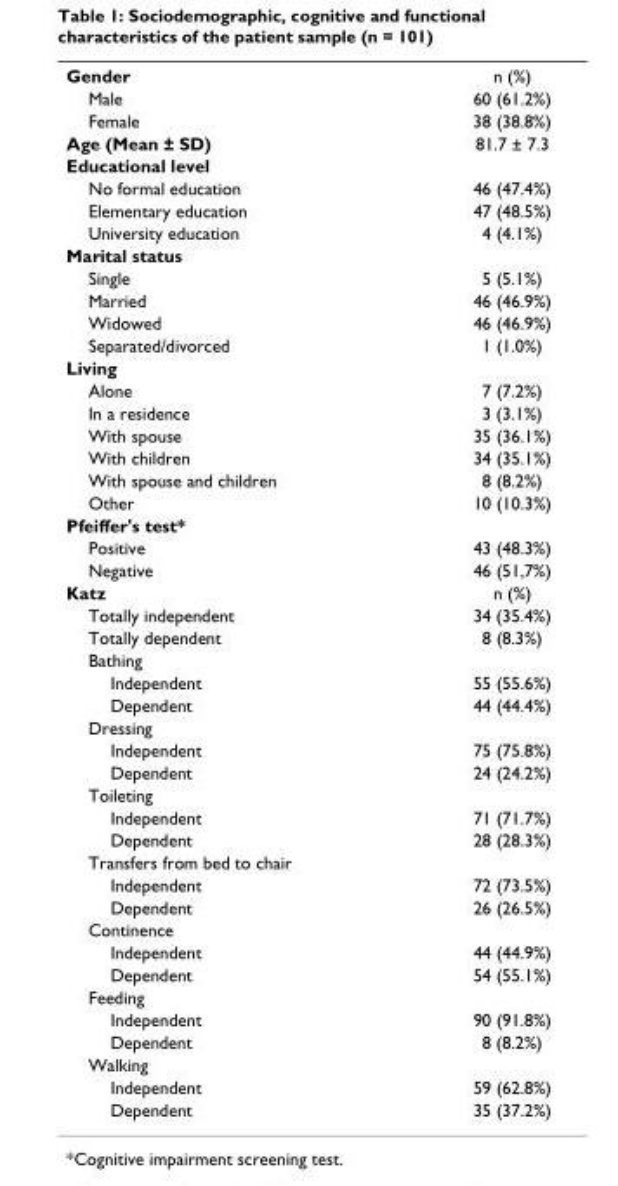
<table><tbody><tr><td>Gender</td><td>n (%)</td></tr><tr><td>Male</td><td>60 (61.2%)</td></tr><tr><td>Female</td><td>38 (38.8%)</td></tr><tr><td>Age (Mean ± SD)</td><td>81.7 ± 7.3</td></tr><tr><td colspan="2">Educational level</td></tr><tr><td>No formal education</td><td>46 (47.4%)</td></tr><tr><td>Elementary education</td><td>47 (48.5%)</td></tr><tr><td>University education</td><td>4 (4.1%)</td></tr><tr><td colspan="2">Marital status</td></tr><tr><td>Single</td><td>5 (5.1%)</td></tr><tr><td>Married</td><td>46 (46.9%)</td></tr><tr><td>Widowed</td><td>46 (46.9%)</td></tr><tr><td>Separated/divorced</td><td>1 (1.0%)</td></tr><tr><td colspan="2">Living</td></tr><tr><td>Alone</td><td>7 (7.2%)</td></tr><tr><td>In a residence</td><td>3 (3.1%)</td></tr><tr><td>With spouse</td><td>35 (36.1%)</td></tr><tr><td>With children</td><td>34 (35.1%)</td></tr><tr><td>With spouse and children</td><td>8 (8.2%)</td></tr><tr><td>Other</td><td>10 (10.3%)</td></tr><tr><td colspan="2">Pfeiffer&#x27;s test*</td></tr><tr><td>Positive</td><td>43 (48.3%)</td></tr><tr><td>Negative</td><td>46 (51,7%)</td></tr><tr><td>Katz</td><td>n (%)</td></tr><tr><td>Totally independent</td><td>34 (35.4%)</td></tr><tr><td>Totally dependent</td><td>8 (8.3%)</td></tr><tr><td colspan="2">Bathing</td></tr><tr><td>Independent</td><td>55 (55.6%)</td></tr><tr><td>Dependent</td><td>44 (44.4%)</td></tr><tr><td colspan="2">Dressing</td></tr><tr><td>Independent</td><td>75 (75.8%)</td></tr><tr><td>Dependent</td><td>24 (24.2%)</td></tr><tr><td colspan="2">Toileting</td></tr><tr><td>Independent</td><td>71 (71.7%)</td></tr><tr><td>Dependent</td><td>28 (28.3%)</td></tr><tr><td colspan="2">Transfers from bed to chair</td></tr><tr><td>Independent</td><td>72 (73.5%)</td></tr><tr><td>Dependent</td><td>26 (26.5%)</td></tr><tr><td colspan="2">Continence</td></tr><tr><td>Independent</td><td>44 (44.9%)</td></tr><tr><td>Dependent</td><td>54 (55.1%)</td></tr><tr><td colspan="2">Feeding</td></tr><tr><td>Independent</td><td>90 (91.8%)</td></tr><tr><td>Dependent</td><td>8 (8.2%)</td></tr><tr><td colspan="2">Walking</td></tr><tr><td>Independent</td><td>59 (62.8%)</td></tr><tr><td>Dependent</td><td>35 (37.2%)</td></tr></tbody></table>